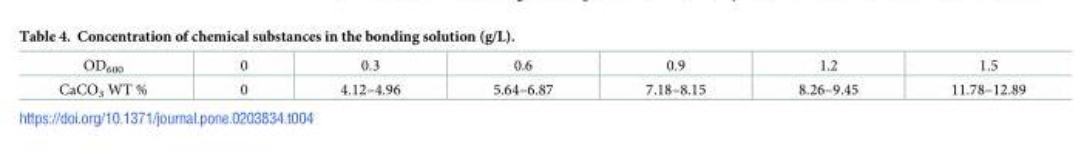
<table><tbody><tr><td>OD<sub>600</sub></td><td>0</td><td>0.3</td><td>0.6</td><td>0.9</td><td>1.2</td><td>1.5</td></tr><tr><td>CaCO<sub>3</sub> WT %</td><td>0</td><td>4.12–4.96</td><td>5.64–6.87</td><td>7.18–8.15</td><td>8.26–9.45</td><td>11.78–12.89</td></tr></tbody></table>